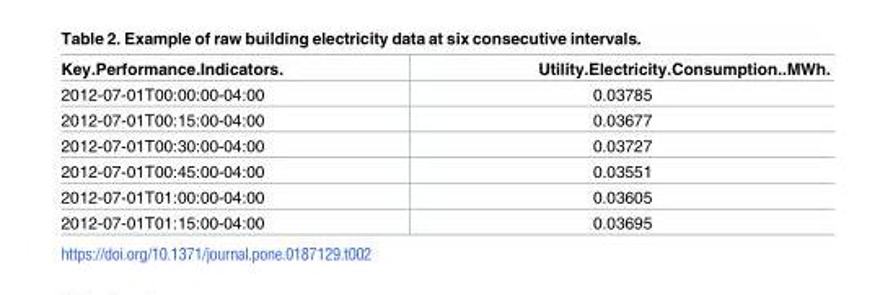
<table><thead><tr><td>Key.Performance.Indicators.</td><td>Utility.Electricity.Consumption..MWh.</td></tr></thead><tbody><tr><td>2012-07-01T00:00:00-04:00</td><td>0.03785</td></tr><tr><td>2012-07-01T00:15:00-04:00</td><td>0.03677</td></tr><tr><td>2012-07-01T00:30:00-04:00</td><td>0.03727</td></tr><tr><td>2012-07-01T00:45:00-04:00</td><td>0.03551</td></tr><tr><td>2012-07-01T01:00:00-04:00</td><td>0.03605</td></tr><tr><td>2012-07-01T01:15:00-04:00</td><td>0.03695</td></tr></tbody></table>